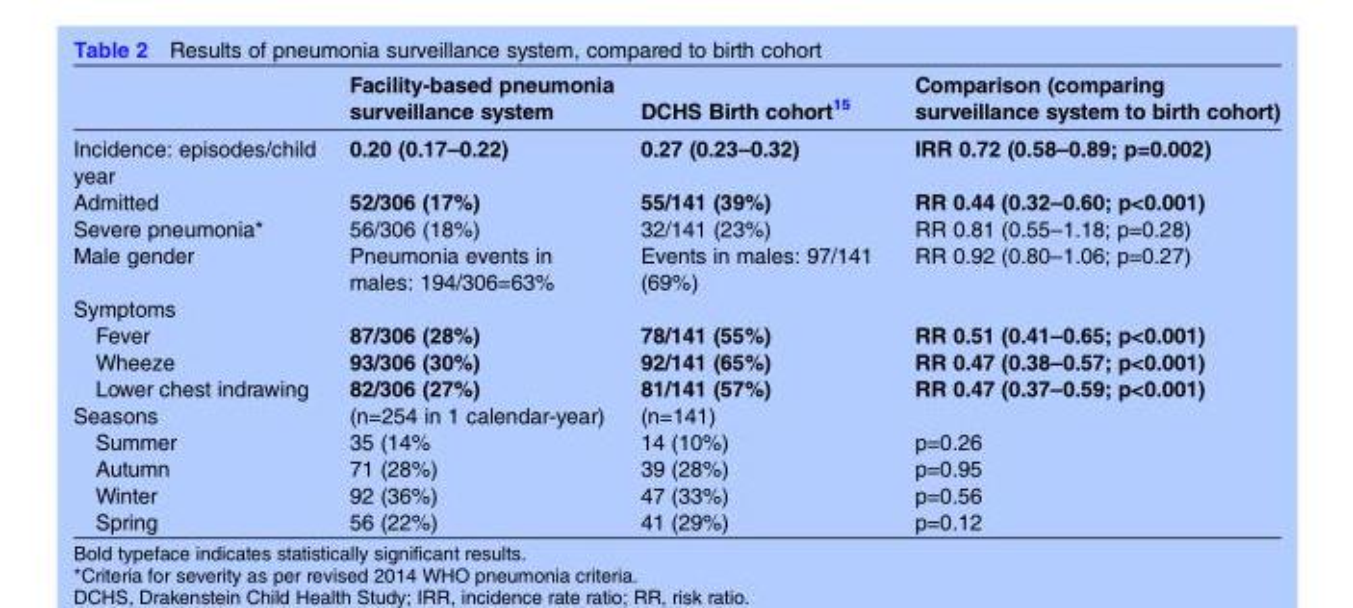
<table><thead><tr><td></td><td>Facility-based pneumonia surveillance system</td><td>DCHS Birth cohort<sup>15</sup></td><td>Comparison (comparing surveillance system to birth cohort)</td></tr></thead><tbody><tr><td>Incidence: episodes/child year</td><td>0.20 (0.17–0.22)</td><td>0.27 (0.23–0.32)</td><td>IRR 0.72 (0.58–0.89; p=0.002)</td></tr><tr><td>Admitted</td><td>52/306 (17%)</td><td>55/141 (39%)</td><td>RR 0.44 (0.32–0.60; p&lt;0.001)</td></tr><tr><td>Severe pneumonia*</td><td>56/306 (18%)</td><td>32/141 (23%)</td><td>RR 0.81 (0.55–1.18; p=0.28)</td></tr><tr><td>Male gender</td><td>Pneumonia events in males: 194/306=63%</td><td>Events in males: 97/141 (69%)</td><td>RR 0.92 (0.80–1.06; p=0.27)</td></tr><tr><td colspan="4">Symptoms</td></tr><tr><td>Fever</td><td>87/306 (28%)</td><td>78/141 (55%)</td><td>RR 0.51 (0.41–0.65; p&lt;0.001)</td></tr><tr><td>Wheeze</td><td>93/306 (30%)</td><td>92/141 (65%)</td><td>RR 0.47 (0.38–0.57; p&lt;0.001)</td></tr><tr><td>Lower chest indrawing</td><td>82/306 (27%)</td><td>81/141 (57%)</td><td>RR 0.47 (0.37–0.59; p&lt;0.001)</td></tr><tr><td>Seasons</td><td>(n=254 in 1 calendar-year)</td><td>(n=141)</td><td></td></tr><tr><td>Summer</td><td>35 (14%</td><td>14 (10%)</td><td>p=0.26</td></tr><tr><td>Autumn</td><td>71 (28%)</td><td>39 (28%)</td><td>p=0.95</td></tr><tr><td>Winter</td><td>92 (36%)</td><td>47 (33%)</td><td>p=0.56</td></tr><tr><td>Spring</td><td>56 (22%)</td><td>41 (29%)</td><td>p=0.12</td></tr></tbody></table>